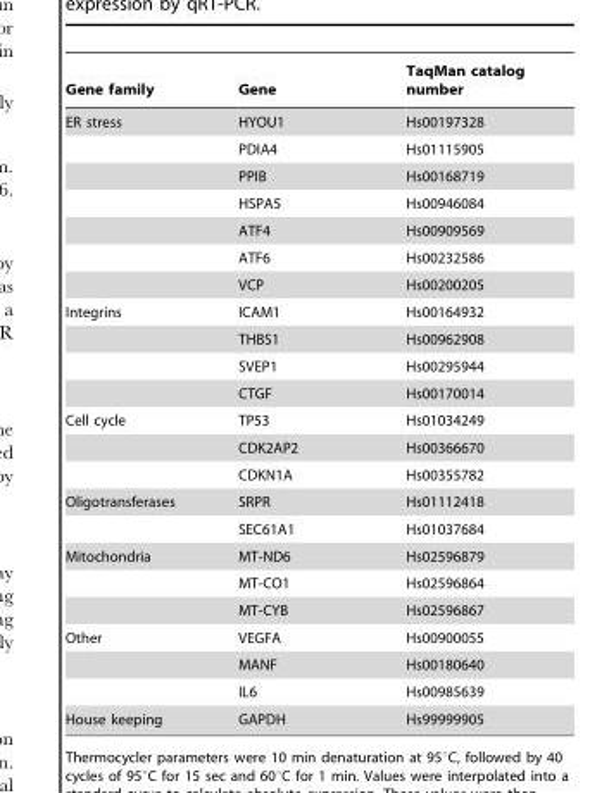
<table><thead><tr><td>Gene family</td><td>Gene</td><td>TaqMan catalog number</td></tr></thead><tbody><tr><td rowspan="7">ER stress</td><td>HYOU1</td><td>Hs00197328</td></tr><tr><td>PDIA4</td><td>Hs01115905</td></tr><tr><td>PPIB</td><td>Hs00168719</td></tr><tr><td>HSPA5</td><td>Hs00946084</td></tr><tr><td>ATF4</td><td>Hs00909569</td></tr><tr><td>ATF6</td><td>Hs00232586</td></tr><tr><td>VCP</td><td>Hs00200205</td></tr><tr><td rowspan="4">Integrins</td><td>ICAM1</td><td>Hs00164932</td></tr><tr><td>THBS1</td><td>Hs00962908</td></tr><tr><td>SVEP1</td><td>Hs00295944</td></tr><tr><td>CTGF</td><td>Hs00170014</td></tr><tr><td rowspan="3">Cell cycle</td><td>TP53</td><td>Hs01034249</td></tr><tr><td>CDK2AP2</td><td>Hs00366670</td></tr><tr><td>CDKN1A</td><td>Hs00355782</td></tr><tr><td rowspan="2">Oligotransferases</td><td>SRPR</td><td>Hs01112418</td></tr><tr><td>SEC61A1</td><td>Hs01037684</td></tr><tr><td rowspan="3">Mitochondria</td><td>MT-ND6</td><td>Hs02596879</td></tr><tr><td>MT-CO1</td><td>Hs02596864</td></tr><tr><td>MT-CYB</td><td>Hs02596867</td></tr><tr><td rowspan="3">Other</td><td>VEGFA</td><td>Hs00900055</td></tr><tr><td>MANF</td><td>Hs00180640</td></tr><tr><td>IL6</td><td>Hs00985639</td></tr><tr><td>House keeping</td><td>GAPDH</td><td>Hs99999905</td></tr></tbody></table>